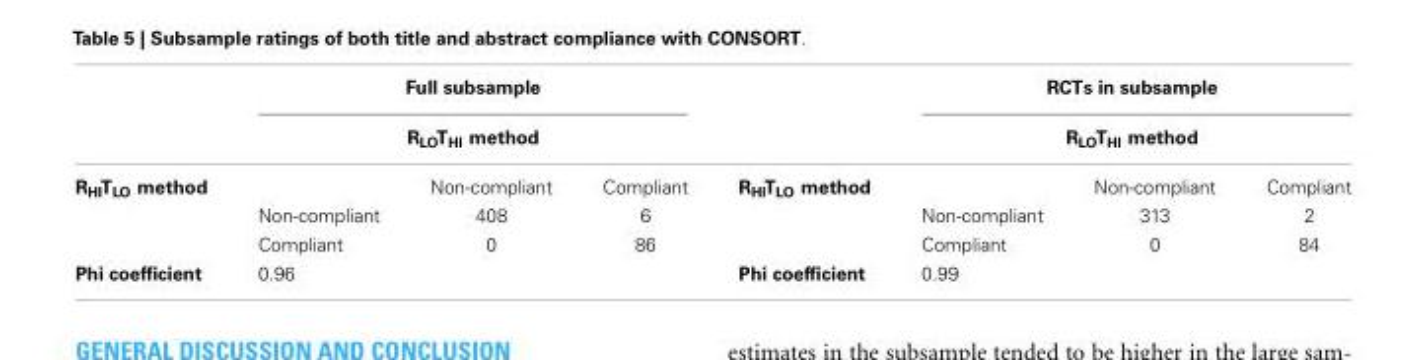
<table><thead><tr><td rowspan="3">R<sub>HI</sub>T<sub>LO</sub> method</td><td rowspan="2" colspan="3">Full subsample R<sub>LO</sub>T<sub>HI</sub> method</td><td rowspan="3">R<sub>HI</sub>T<sub>LO</sub> method</td><td rowspan="2" colspan="3">RCTs in subsample R<sub>LO</sub>T<sub>HI</sub> method</td></tr><tr></tr><tr><td></td><td>Non-compliant</td><td>Compliant</td><td></td><td>Non-compliant</td><td>Compliant</td></tr></thead><tbody><tr><td></td><td>Non-compliant</td><td>408</td><td>6</td><td></td><td>Non-compliant</td><td>313</td><td>2</td></tr><tr><td></td><td>Compliant</td><td>0</td><td>86</td><td></td><td>Compliant</td><td>0</td><td>84</td></tr><tr><td>Phi coefficient</td><td>0.96</td><td></td><td></td><td>Phi coefficient</td><td>0.99</td><td></td><td></td></tr></tbody></table>